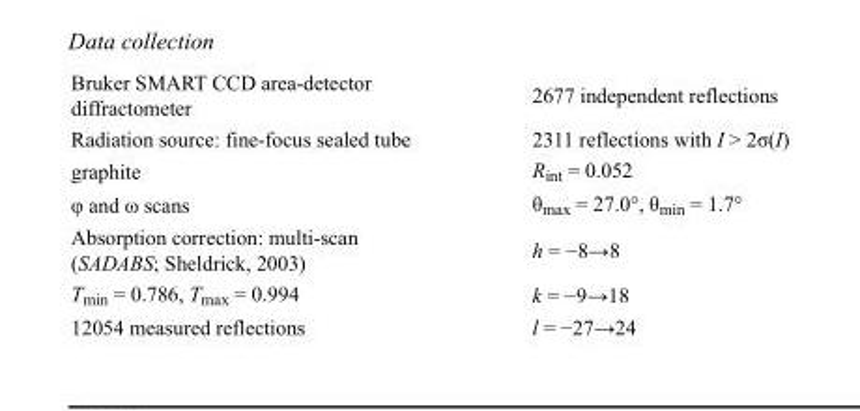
<table><tbody><tr><td>Bruker SMART CCD area-detector diffractometer</td><td>2677 independent reflections</td></tr><tr><td>Radiation source: fine-focus sealed tube</td><td>2311 reflections with I &gt; 2σ(I)</td></tr><tr><td>graphite</td><td>R<sub>int</sub> = 0.052</td></tr><tr><td>φ and ω scans</td><td>θ<sub>max</sub> = 27.0°, θ<sub>min</sub> = 1.7°</td></tr><tr><td>Absorption correction: multi-scan (SADABS; Sheldrick, 2003)</td><td>h = −8→8</td></tr><tr><td>T<sub>min</sub> = 0.786, T<sub>max</sub> = 0.994</td><td>k = −9→18</td></tr><tr><td>12054 measured reflections</td><td>l = −27→24</td></tr></tbody></table>